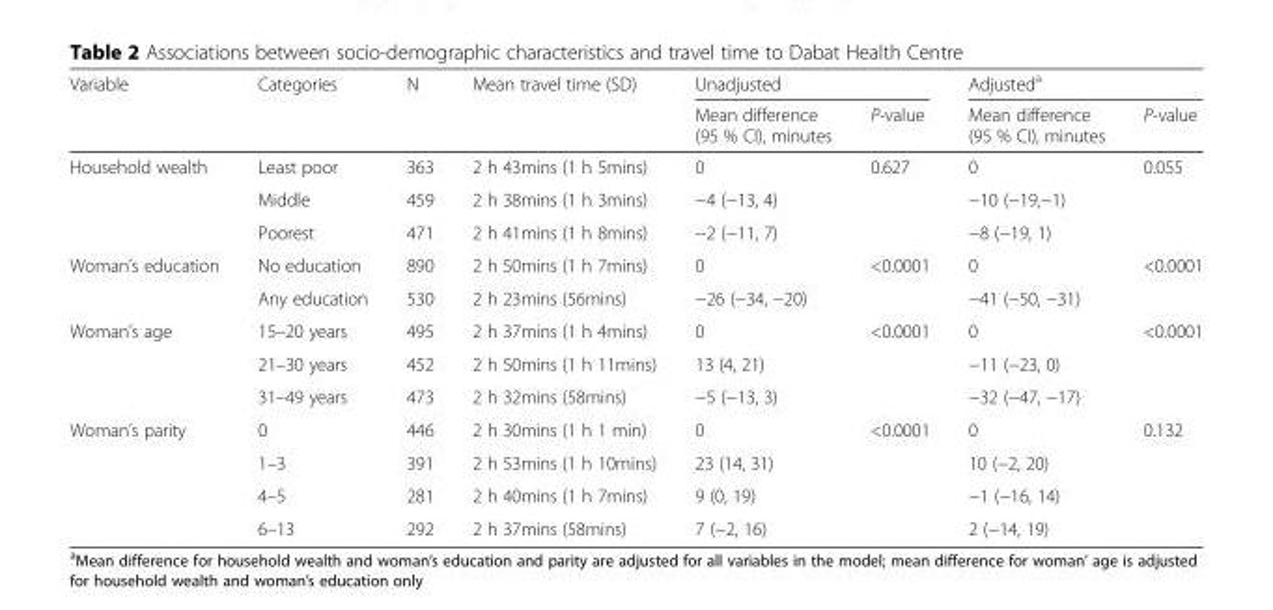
<table><thead><tr><td rowspan="2">Variable</td><td rowspan="2">Categories</td><td rowspan="2">N</td><td rowspan="2">Mean travel time (SD)</td><td colspan="2">Unadjusted</td><td colspan="2">Adjusted<sup>a</sup></td></tr><tr><td>Mean difference (95 % CI), minutes</td><td>P-value</td><td>Mean difference (95 % CI), minutes</td><td>P-value</td></tr></thead><tbody><tr><td rowspan="3">Household wealth</td><td>Least poor</td><td>363</td><td>2 h 43mins (1 h 5mins)</td><td>0</td><td rowspan="3">0.627</td><td>0</td><td rowspan="3">0.055</td></tr><tr><td>Middle</td><td>459</td><td>2 h 38mins (1 h 3mins)</td><td>−4 (−13, 4)</td><td>−10 (−19,−1)</td></tr><tr><td>Poorest</td><td>471</td><td>2 h 41mins (1 h 8mins)</td><td>−2 (−11, 7)</td><td>−8 (−19, 1)</td></tr><tr><td rowspan="2">Woman’s education</td><td>No education</td><td>890</td><td>2 h 50mins (1 h 7mins)</td><td>0</td><td rowspan="2">&lt;0.0001</td><td>0</td><td rowspan="2">&lt;0.0001</td></tr><tr><td>Any education</td><td>530</td><td>2 h 23mins (56mins)</td><td>−26 (−34, −20)</td><td>−41 (−50, −31)</td></tr><tr><td rowspan="3">Woman’s age</td><td>15–20 years</td><td>495</td><td>2 h 37mins (1 h 4mins)</td><td>0</td><td rowspan="3">&lt;0.0001</td><td>0</td><td rowspan="3">&lt;0.0001</td></tr><tr><td>21–30 years</td><td>452</td><td>2 h 50mins (1 h 11mins)</td><td>13 (4, 21)</td><td>−11 (−23, 0)</td></tr><tr><td>31–49 years</td><td>473</td><td>2 h 32mins (58mins)</td><td>−5 (−13, 3)</td><td>−32 (−47, −17)</td></tr><tr><td rowspan="4">Woman’s parity</td><td>0</td><td>446</td><td>2 h 30mins (1 h 1 min)</td><td>0</td><td rowspan="4">&lt;0.0001</td><td>0</td><td rowspan="4">0.132</td></tr><tr><td>1–3</td><td>391</td><td>2 h 53mins (1 h 10mins)</td><td>23 (14, 31)</td><td>10 (−2, 20)</td></tr><tr><td>4–5</td><td>281</td><td>2 h 40mins (1 h 7mins)</td><td>9 (0, 19)</td><td>−1 (−16, 14)</td></tr><tr><td>6–13</td><td>292</td><td>2 h 37mins (58mins)</td><td>7 (−2, 16)</td><td>2 (−14, 19)</td></tr></tbody></table>